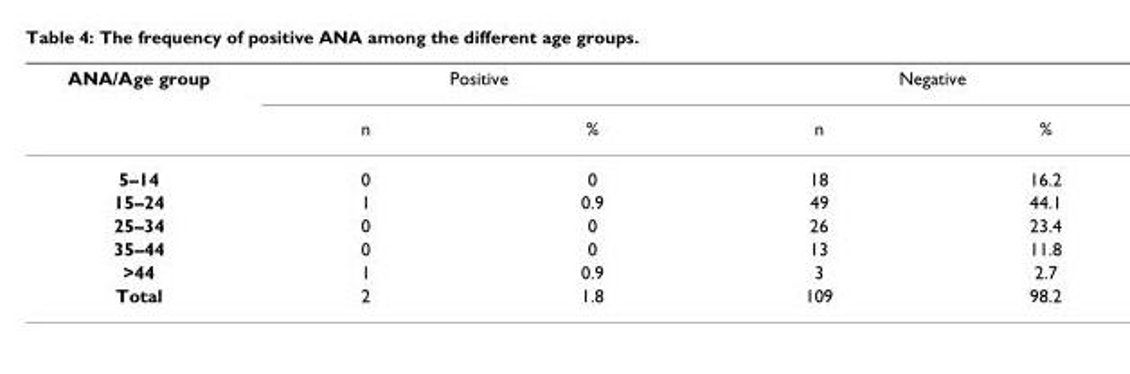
<table><thead><tr><td rowspan="2">ANA/Age group</td><td colspan="2">Positive</td><td colspan="2">Negative</td></tr><tr><td>n</td><td>%</td><td>n</td><td>%</td></tr></thead><tbody><tr><td>5–14</td><td>0</td><td>0</td><td>18</td><td>16.2</td></tr><tr><td>15–24</td><td>1</td><td>0.9</td><td>49</td><td>44.1</td></tr><tr><td>25–34</td><td>0</td><td>0</td><td>26</td><td>23.4</td></tr><tr><td>35–44</td><td>0</td><td>0</td><td>13</td><td>11.8</td></tr><tr><td>&gt;44</td><td>1</td><td>0.9</td><td>3</td><td>2.7</td></tr><tr><td>Total</td><td>2</td><td>1.8</td><td>109</td><td>98.2</td></tr></tbody></table>